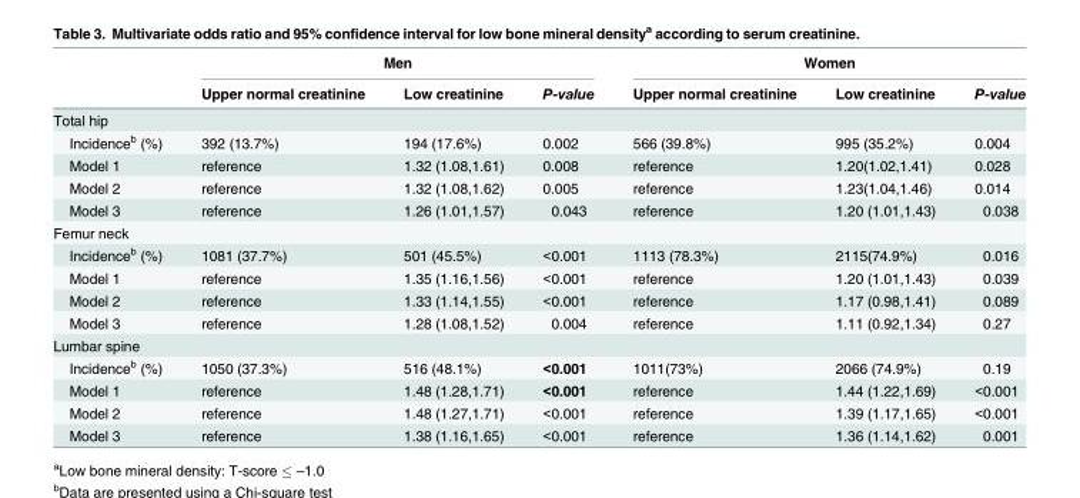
<table><thead><tr><td rowspan="2"></td><td colspan="3">Men</td><td colspan="3">Women</td></tr><tr><td>Upper normal creatinine</td><td>Low creatinine</td><td>P-value</td><td>Upper normal creatinine</td><td>Low creatinine</td><td>P-value</td></tr></thead><tbody><tr><td colspan="7">Total hip</td></tr><tr><td>Incidence<sup>b</sup> (%)</td><td>392 (13.7%)</td><td>194 (17.6%)</td><td>0.002</td><td>566 (39.8%)</td><td>995 (35.2%)</td><td>0.004</td></tr><tr><td>Model 1</td><td>reference</td><td>1.32 (1.08,1.61)</td><td>0.008</td><td>reference</td><td>1.20(1.02,1.41)</td><td>0.028</td></tr><tr><td>Model 2</td><td>reference</td><td>1.32 (1.08,1.62)</td><td>0.005</td><td>reference</td><td>1.23(1.04,1.46)</td><td>0.014</td></tr><tr><td>Model 3</td><td>reference</td><td>1.26 (1.01,1.57)</td><td>0.043</td><td>reference</td><td>1.20 (1.01,1.43)</td><td>0.038</td></tr><tr><td colspan="7">Femur neck</td></tr><tr><td>Incidence<sup>b</sup> (%)</td><td>1081 (37.7%)</td><td>501 (45.5%)</td><td>&lt;0.001</td><td>1113 (78.3%)</td><td>2115(74.9%)</td><td>0.016</td></tr><tr><td>Model 1</td><td>reference</td><td>1.35 (1.16,1.56)</td><td>&lt;0.001</td><td>reference</td><td>1.20 (1.01,1.43)</td><td>0.039</td></tr><tr><td>Model 2</td><td>reference</td><td>1.33 (1.14,1.55)</td><td>&lt;0.001</td><td>reference</td><td>1.17 (0.98,1.41)</td><td>0.089</td></tr><tr><td>Model 3</td><td>reference</td><td>1.28 (1.08,1.52)</td><td>0.004</td><td>reference</td><td>1.11 (0.92,1.34)</td><td>0.27</td></tr><tr><td colspan="7">Lumbar spine</td></tr><tr><td>Incidence<sup>b</sup> (%)</td><td>1050 (37.3%)</td><td>516 (48.1%)</td><td>&lt;0.001</td><td>1011(73%)</td><td>2066 (74.9%)</td><td>0.19</td></tr><tr><td>Model 1</td><td>reference</td><td>1.48 (1.28,1.71)</td><td>&lt;0.001</td><td>reference</td><td>1.44 (1.22,1.69)</td><td>&lt;0.001</td></tr><tr><td>Model 2</td><td>reference</td><td>1.48 (1.27,1.71)</td><td>&lt;0.001</td><td>reference</td><td>1.39 (1.17,1.65)</td><td>&lt;0.001</td></tr><tr><td>Model 3</td><td>reference</td><td>1.38 (1.16,1.65)</td><td>&lt;0.001</td><td>reference</td><td>1.36 (1.14,1.62)</td><td>0.001</td></tr></tbody></table>